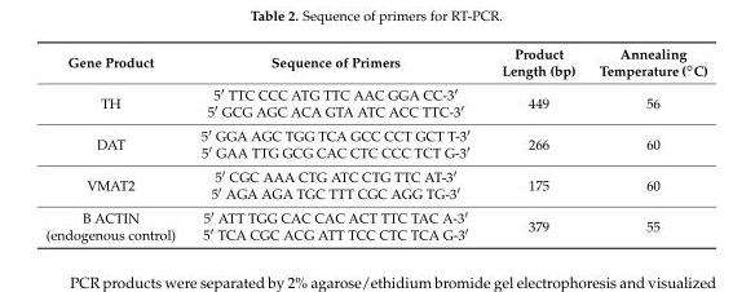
<table><thead><tr><td>Gene Product</td><td>Sequence of Primers</td><td>Product Length (bp)</td><td>Annealing Temperature (◦C)</td></tr></thead><tbody><tr><td>TH</td><td>5′ TTC CCC ATG TTC AAC GGA CC-3′ 5′ GCG AGC ACA GTA ATC ACC TTC-3′</td><td>449</td><td>56</td></tr><tr><td>DAT</td><td>5′ GGA AGC TGG TCA GCC CCT GCT T-3′ 5′ GAA TTG GCG CAC CTC CCC TCT G-3′</td><td>266</td><td>60</td></tr><tr><td>VMAT2</td><td>5′ CGC AAA CTG ATC CTG TTC AT-3′ 5′ AGA AGA TGC TTT CGC AGG TG-3′</td><td>175</td><td>60</td></tr><tr><td>B ACTIN (endogenous control)</td><td>5′ ATT TGG CAC CAC ACT TTC TAC A-3′ 5′ TCA CGC ACG ATT TCC CTC TCA G-3′</td><td>379</td><td>55</td></tr></tbody></table>